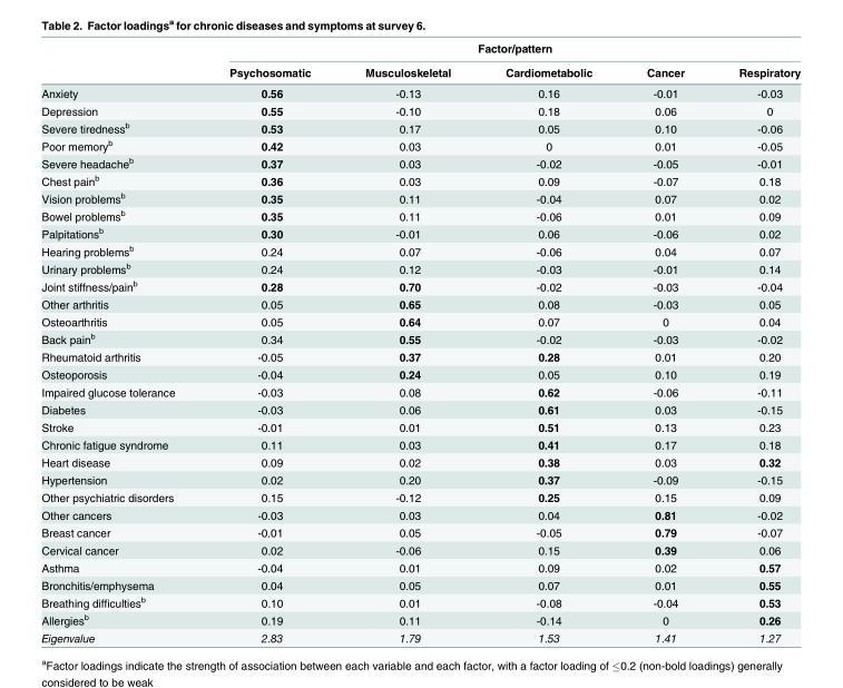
<table><thead><tr><td rowspan="2"></td><td colspan="5">Factor/pattern</td></tr><tr><td>Psychosomatic</td><td>Musculoskeletal</td><td>Cardiometabolic</td><td>Cancer</td><td>Respiratory</td></tr></thead><tbody><tr><td>Anxiety</td><td>0.56</td><td>-0.13</td><td>0.16</td><td>-0.01</td><td>-0.03</td></tr><tr><td>Depression</td><td>0.55</td><td>-0.10</td><td>0.18</td><td>0.06</td><td>0</td></tr><tr><td>Severe tiredness<sup>b</sup></td><td>0.53</td><td>0.17</td><td>0.05</td><td>0.10</td><td>-0.06</td></tr><tr><td>Poor memory<sup>b</sup></td><td>0.42</td><td>0.03</td><td>0</td><td>0.01</td><td>-0.05</td></tr><tr><td>Severe headache<sup>b</sup></td><td>0.37</td><td>0.03</td><td>-0.02</td><td>-0.05</td><td>-0.01</td></tr><tr><td>Chest pain<sup>b</sup></td><td>0.36</td><td>0.03</td><td>0.09</td><td>-0.07</td><td>0.18</td></tr><tr><td>Vision problems<sup>b</sup></td><td>0.35</td><td>0.11</td><td>-0.04</td><td>0.07</td><td>0.02</td></tr><tr><td>Bowel problems<sup>b</sup></td><td>0.35</td><td>0.11</td><td>-0.06</td><td>0.01</td><td>0.09</td></tr><tr><td>Palpitations<sup>b</sup></td><td>0.30</td><td>-0.01</td><td>0.06</td><td>-0.06</td><td>0.02</td></tr><tr><td>Hearing problems<sup>b</sup></td><td>0.24</td><td>0.07</td><td>-0.06</td><td>0.04</td><td>0.07</td></tr><tr><td>Urinary problems<sup>b</sup></td><td>0.24</td><td>0.12</td><td>-0.03</td><td>-0.01</td><td>0.14</td></tr><tr><td>Joint stiffness/pain<sup>b</sup></td><td>0.28</td><td>0.70</td><td>-0.02</td><td>-0.03</td><td>-0.04</td></tr><tr><td>Other arthritis</td><td>0.05</td><td>0.65</td><td>0.08</td><td>-0.03</td><td>0.05</td></tr><tr><td>Osteoarthritis</td><td>0.05</td><td>0.64</td><td>0.07</td><td>0</td><td>0.04</td></tr><tr><td>Back pain<sup>b</sup></td><td>0.34</td><td>0.55</td><td>-0.02</td><td>-0.03</td><td>-0.02</td></tr><tr><td>Rheumatoid arthritis</td><td>-0.05</td><td>0.37</td><td>0.28</td><td>0.01</td><td>0.20</td></tr><tr><td>Osteoporosis</td><td>-0.04</td><td>0.24</td><td>0.05</td><td>0.10</td><td>0.19</td></tr><tr><td>Impaired glucose tolerance</td><td>-0.03</td><td>0.08</td><td>0.62</td><td>-0.06</td><td>-0.11</td></tr><tr><td>Diabetes</td><td>-0.03</td><td>0.06</td><td>0.61</td><td>0.03</td><td>-0.15</td></tr><tr><td>Stroke</td><td>-0.01</td><td>0.01</td><td>0.51</td><td>0.13</td><td>0.23</td></tr><tr><td>Chronic fatigue syndrome</td><td>0.11</td><td>0.03</td><td>0.41</td><td>0.17</td><td>0.18</td></tr><tr><td>Heart disease</td><td>0.09</td><td>0.02</td><td>0.38</td><td>0.03</td><td>0.32</td></tr><tr><td>Hypertension</td><td>0.02</td><td>0.20</td><td>0.37</td><td>-0.09</td><td>-0.15</td></tr><tr><td>Other psychiatric disorders</td><td>0.15</td><td>-0.12</td><td>0.25</td><td>0.15</td><td>0.09</td></tr><tr><td>Other cancers</td><td>-0.03</td><td>0.03</td><td>0.04</td><td>0.81</td><td>-0.02</td></tr><tr><td>Breast cancer</td><td>-0.01</td><td>0.05</td><td>-0.05</td><td>0.79</td><td>-0.07</td></tr><tr><td>Cervical cancer</td><td>0.02</td><td>-0.06</td><td>0.15</td><td>0.39</td><td>0.06</td></tr><tr><td>Asthma</td><td>-0.04</td><td>0.01</td><td>0.09</td><td>0.02</td><td>0.57</td></tr><tr><td>Bronchitis/emphysema</td><td>0.04</td><td>0.05</td><td>0.07</td><td>0.01</td><td>0.55</td></tr><tr><td>Breathing difficulties<sup>b</sup></td><td>0.10</td><td>0.01</td><td>-0.08</td><td>-0.04</td><td>0.53</td></tr><tr><td>Allergies<sup>b</sup></td><td>0.19</td><td>0.11</td><td>-0.14</td><td>0</td><td>0.26</td></tr><tr><td>Eigenvalue</td><td>2.83</td><td>1.79</td><td>1.53</td><td>1.41</td><td>1.27</td></tr></tbody></table>